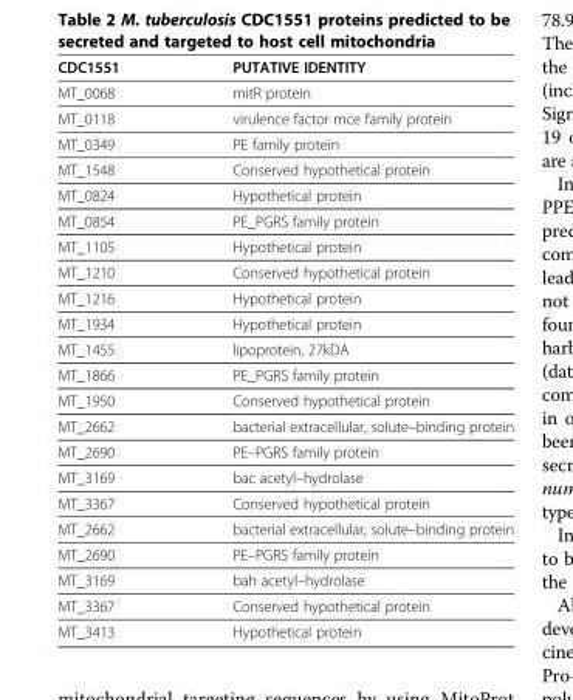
<table><thead><tr><td>CDC1551</td><td>PUTATIVE IDENTITY</td></tr></thead><tbody><tr><td>MT_0068</td><td>mitR protein</td></tr><tr><td>MT_0118</td><td>virulence factor mce family protein</td></tr><tr><td>MT_0349</td><td>PE family protein</td></tr><tr><td>MT_1548</td><td>Conserved hypothetical protein</td></tr><tr><td>MT_0824</td><td>Hypothetical protein</td></tr><tr><td>MT_0854</td><td>PE_PGRS family protein</td></tr><tr><td>MT_1105</td><td>Hypothetical protein</td></tr><tr><td>MT_1210</td><td>Conserved hypothetical protein</td></tr><tr><td>MT_1216</td><td>Hypothetical protein</td></tr><tr><td>MT_1934</td><td>Hypothetical protein</td></tr><tr><td>MT_1455</td><td>lipoprotein, 27kDA</td></tr><tr><td>MT_1866</td><td>PE_PGRS family protein</td></tr><tr><td>MT_1950</td><td>Conserved hypothetical protein</td></tr><tr><td>MT_2662</td><td>bacterial extracellular, solute–binding protein</td></tr><tr><td>MT_2690</td><td>PE–PGRS family protein</td></tr><tr><td>MT_3169</td><td>bac acetyl–hydrolase</td></tr><tr><td>MT_3367</td><td>Conserved hypothetical protein</td></tr><tr><td>MT_2662</td><td>bacterial extracellular, solute–binding protein</td></tr><tr><td>MT_2690</td><td>PE–PGRS family protein</td></tr><tr><td>MT_3169</td><td>bah acetyl–hydrolase</td></tr><tr><td>MT_3367</td><td>Conserved hypothetical protein</td></tr><tr><td>MT_3413</td><td>Hypothetical protein</td></tr></tbody></table>